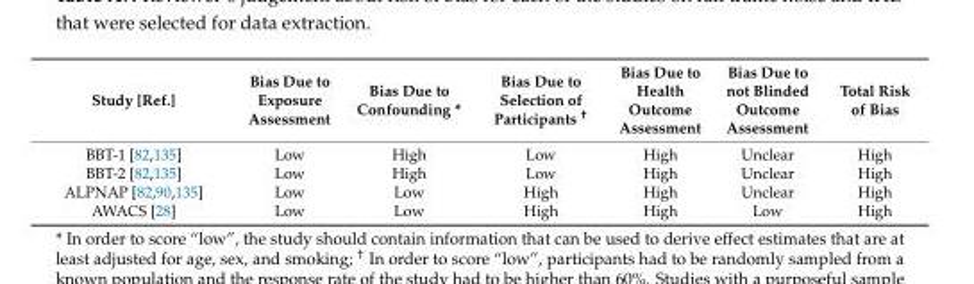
<table><thead><tr><td>Study [Ref.]</td><td>Bias Due to Exposure Assessment</td><td>Bias Due to Confounding *</td><td>Bias Due to Selection of Participants <sup>†</sup></td><td>Bias Due to Health Outcome Assessment</td><td>Bias Due to not Blinded Outcome Assessment</td><td>Total Risk of Bias</td></tr></thead><tbody><tr><td>BBT-1 [82,135]</td><td>Low</td><td>High</td><td>Low</td><td>High</td><td>Unclear</td><td>High</td></tr><tr><td>BBT-2 [82,135]</td><td>Low</td><td>High</td><td>Low</td><td>High</td><td>Unclear</td><td>High</td></tr><tr><td>ALPNAP [82,90,135]</td><td>Low</td><td>Low</td><td>High</td><td>High</td><td>Unclear</td><td>High</td></tr><tr><td>AWACS [28]</td><td>Low</td><td>Low</td><td>High</td><td>High</td><td>Low</td><td>High</td></tr></tbody></table>